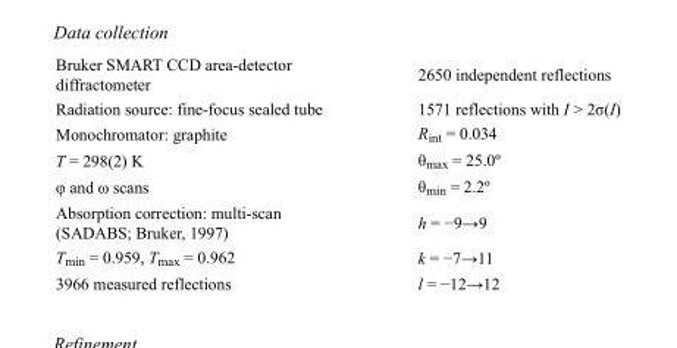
<table><tbody><tr><td>Bruker SMART CCD area-detector diffractometer</td><td>2650 independent reflections</td></tr><tr><td>Radiation source: fine-focus sealed tube</td><td>1571 reflections with I &gt; 2σ(I)</td></tr><tr><td>Monochromator: graphite</td><td>R<sub>int</sub> = 0.034</td></tr><tr><td>T = 298(2) K</td><td>θ<sub>max</sub> = 25.0º</td></tr><tr><td>φ and ω scans</td><td>θ<sub>min</sub> = 2.2º</td></tr><tr><td>Absorption correction: multi-scan (SADABS; Bruker, 1997)</td><td>h = −9→9</td></tr><tr><td>T<sub>min</sub> = 0.959, T<sub>max</sub> = 0.962</td><td>k = −7→11</td></tr><tr><td>3966 measured reflections</td><td>l = −12→12</td></tr></tbody></table>